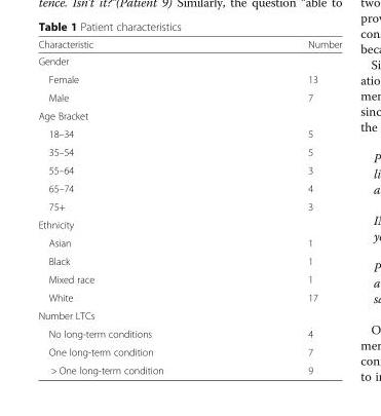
<table><thead><tr><td>Characteristic</td><td>Number</td></tr></thead><tbody><tr><td colspan="2">Gender</td></tr><tr><td>Female</td><td>13</td></tr><tr><td>Male</td><td>7</td></tr><tr><td colspan="2">Age Bracket</td></tr><tr><td>18–34</td><td>5</td></tr><tr><td>35–54</td><td>5</td></tr><tr><td>55–64</td><td>3</td></tr><tr><td>65–74</td><td>4</td></tr><tr><td>75+</td><td>3</td></tr><tr><td colspan="2">Ethnicity</td></tr><tr><td>Asian</td><td>1</td></tr><tr><td>Black</td><td>1</td></tr><tr><td>Mixed race</td><td>1</td></tr><tr><td>White</td><td>17</td></tr><tr><td colspan="2">Number LTCs</td></tr><tr><td>No long-term conditions</td><td>4</td></tr><tr><td>One long-term condition</td><td>7</td></tr><tr><td>&gt; One long-term condition</td><td>9</td></tr></tbody></table>